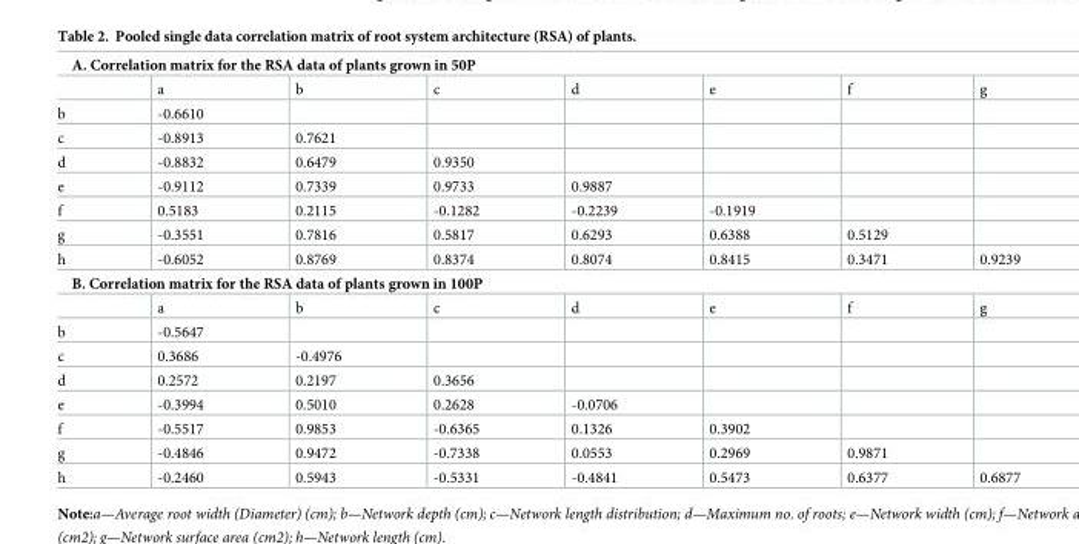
<table><tbody><tr><td colspan="8">A. Correlation matrix for the RSA data of plants grown in 50P</td></tr><tr><td></td><td>a</td><td>b</td><td>c</td><td>d</td><td>e</td><td>f</td><td>g</td></tr><tr><td>b</td><td>-0.6610</td><td></td><td></td><td></td><td></td><td></td><td></td></tr><tr><td>c</td><td>-0.8913</td><td>0.7621</td><td></td><td></td><td></td><td></td><td></td></tr><tr><td>d</td><td>-0.8832</td><td>0.6479</td><td>0.9350</td><td></td><td></td><td></td><td></td></tr><tr><td>e</td><td>-0.9112</td><td>0.7339</td><td>0.9733</td><td>0.9887</td><td></td><td></td><td></td></tr><tr><td>f</td><td>0.5183</td><td>0.2115</td><td>-0.1282</td><td>-0.2239</td><td>-0.1919</td><td></td><td></td></tr><tr><td>g</td><td>-0.3551</td><td>0.7816</td><td>0.5817</td><td>0.6293</td><td>0.6388</td><td>0.5129</td><td></td></tr><tr><td>h</td><td>-0.6052</td><td>0.8769</td><td>0.8374</td><td>0.8074</td><td>0.8415</td><td>0.3471</td><td>0.9239</td></tr><tr><td colspan="8">B. Correlation matrix for the RSA data of plants grown in 100P</td></tr><tr><td></td><td>a</td><td>b</td><td>c</td><td>d</td><td>e</td><td>f</td><td>g</td></tr><tr><td>b</td><td>-0.5647</td><td></td><td></td><td></td><td></td><td></td><td></td></tr><tr><td>c</td><td>0.3686</td><td>-0.4976</td><td></td><td></td><td></td><td></td><td></td></tr><tr><td>d</td><td>0.2572</td><td>0.2197</td><td>0.3656</td><td></td><td></td><td></td><td></td></tr><tr><td>e</td><td>-0.3994</td><td>0.5010</td><td>0.2628</td><td>-0.0706</td><td></td><td></td><td></td></tr><tr><td>f</td><td>-0.5517</td><td>0.9853</td><td>-0.6365</td><td>0.1326</td><td>0.3902</td><td></td><td></td></tr><tr><td>g</td><td>-0.4846</td><td>0.9472</td><td>-0.7338</td><td>0.0553</td><td>0.2969</td><td>0.9871</td><td></td></tr><tr><td>h</td><td>-0.2460</td><td>0.5943</td><td>-0.5331</td><td>-0.4841</td><td>0.5473</td><td>0.6377</td><td>0.6877</td></tr></tbody></table>